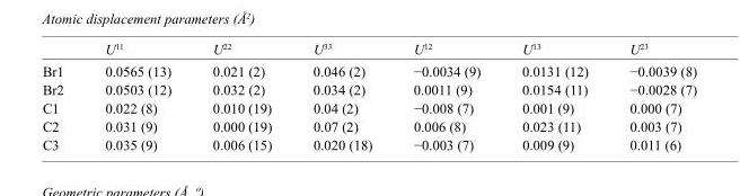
<table><thead><tr><td></td><td>U<sup>11</sup></td><td>U<sup>22</sup></td><td>U<sup>33</sup></td><td>U<sup>12</sup></td><td>U<sup>13</sup></td><td>U<sup>23</sup></td></tr></thead><tbody><tr><td>Br1</td><td>0.0565 (13)</td><td>0.021 (2)</td><td>0.046 (2)</td><td>−0.0034 (9)</td><td>0.0131 (12)</td><td>−0.0039 (8)</td></tr><tr><td>Br2</td><td>0.0503 (12)</td><td>0.032 (2)</td><td>0.034 (2)</td><td>0.0011 (9)</td><td>0.0154 (11)</td><td>−0.0028 (7)</td></tr><tr><td>C1</td><td>0.022 (8)</td><td>0.010 (19)</td><td>0.04 (2)</td><td>−0.008 (7)</td><td>0.001 (9)</td><td>0.000 (7)</td></tr><tr><td>C2</td><td>0.031 (9)</td><td>0.000 (19)</td><td>0.07 (2)</td><td>0.006 (8)</td><td>0.023 (11)</td><td>0.003 (7)</td></tr><tr><td>C3</td><td>0.035 (9)</td><td>0.006 (15)</td><td>0.020 (18)</td><td>−0.003 (7)</td><td>0.009 (9)</td><td>0.011 (6)</td></tr></tbody></table>